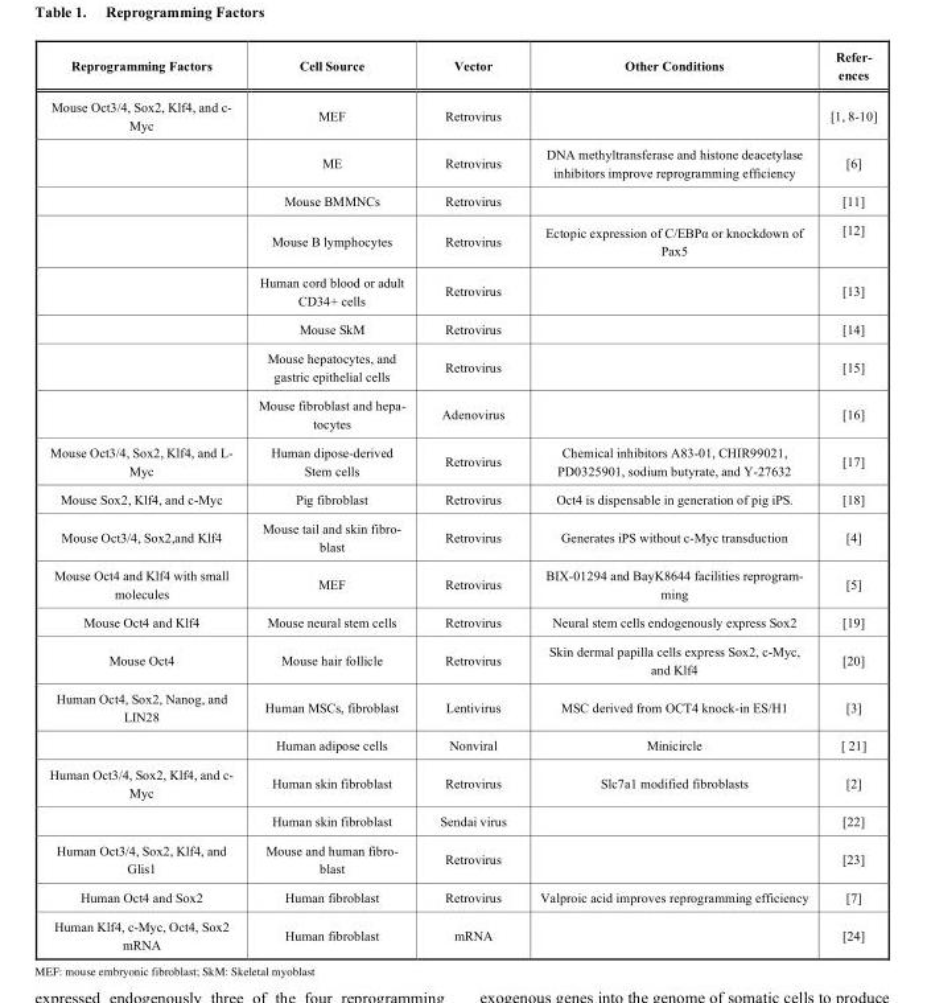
<table><thead><tr><td>Reprogramming Factors</td><td>Cell Source</td><td>Vector</td><td>Other Conditions</td><td>Refer- ences</td></tr></thead><tbody><tr><td rowspan="8">Mouse Oct3/4, Sox2, Klf4, and c- Myc</td><td>MEF</td><td>Retrovirus</td><td></td><td>[1, 8-10]</td></tr><tr><td>ME</td><td>Retrovirus</td><td>DNA methyltransferase and histone deacetylase inhibitors improve reprogramming efficiency</td><td>[6]</td></tr><tr><td>Mouse BMMNCs</td><td>Retrovirus</td><td></td><td>[11]</td></tr><tr><td>Mouse B lymphocytes</td><td>Retrovirus</td><td>Ectopic expression of C/EBPα or knockdown of Pax5</td><td>[12]</td></tr><tr><td>Human cord blood or adult CD34+ cells</td><td>Retrovirus</td><td></td><td>[13]</td></tr><tr><td>Mouse SkM</td><td>Retrovirus</td><td></td><td>[14]</td></tr><tr><td>Mouse hepatocytes, and gastric epithelial cells</td><td>Retrovirus</td><td></td><td>[15]</td></tr><tr><td>Mouse fibroblast and hepa- tocytes</td><td>Adenovirus</td><td></td><td>[16]</td></tr><tr><td>Mouse Oct3/4, Sox2, Klf4, and L- Myc</td><td>Human dipose-derived Stem cells</td><td>Retrovirus</td><td>Chemical inhibitors A83-01, CHIR99021, PD0325901, sodium butyrate, and Y-27632</td><td>[17]</td></tr><tr><td>Mouse Sox2, Klf4, and c-Myc</td><td>Pig fibroblast</td><td>Retrovirus</td><td>Oct4 is dispensable in generation of pig iPS.</td><td>[18]</td></tr><tr><td>Mouse Oct3/4, Sox2,and Klf4</td><td>Mouse tail and skin fibro- blast</td><td>Retrovirus</td><td>Generates iPS without c-Myc transduction</td><td>[4]</td></tr><tr><td>Mouse Oct4 and Klf4 with small molecules</td><td>MEF</td><td>Retrovirus</td><td>BIX-01294 and BayK8644 facilities reprogram- ming</td><td>[5]</td></tr><tr><td>Mouse Oct4 and Klf4</td><td>Mouse neural stem cells</td><td>Retrovirus</td><td>Neural stem cells endogenously express Sox2</td><td>[19]</td></tr><tr><td>Mouse Oct4</td><td>Mouse hair follicle</td><td>Retrovirus</td><td>Skin dermal papilla cells express Sox2, c-Myc, and Klf4</td><td>[20]</td></tr><tr><td rowspan="2">Human Oct4, Sox2, Nanog, and LIN28</td><td>Human MSCs, fibroblast</td><td>Lentivirus</td><td>MSC derived from OCT4 knock-in ES/H1</td><td>[3]</td></tr><tr><td>Human adipose cells</td><td>Nonviral</td><td>Minicircle</td><td>[ 21]</td></tr><tr><td rowspan="2">Human Oct3/4, Sox2, Klf4, and c- Myc</td><td>Human skin fibroblast</td><td>Retrovirus</td><td>Slc7a1 modified fibroblasts</td><td>[2]</td></tr><tr><td>Human skin fibroblast</td><td>Sendai virus</td><td></td><td>[22]</td></tr><tr><td>Human Oct3/4, Sox2, Klf4, and Glis1</td><td>Mouse and human fibro- blast</td><td>Retrovirus</td><td></td><td>[23]</td></tr><tr><td>Human Oct4 and Sox2</td><td>Human fibroblast</td><td>Retrovirus</td><td>Valproic acid improves reprogramming efficiency</td><td>[7]</td></tr><tr><td>Human Klf4, c-Myc, Oct4, Sox2 mRNA</td><td>Human fibroblast</td><td>mRNA</td><td></td><td>[24]</td></tr></tbody></table>